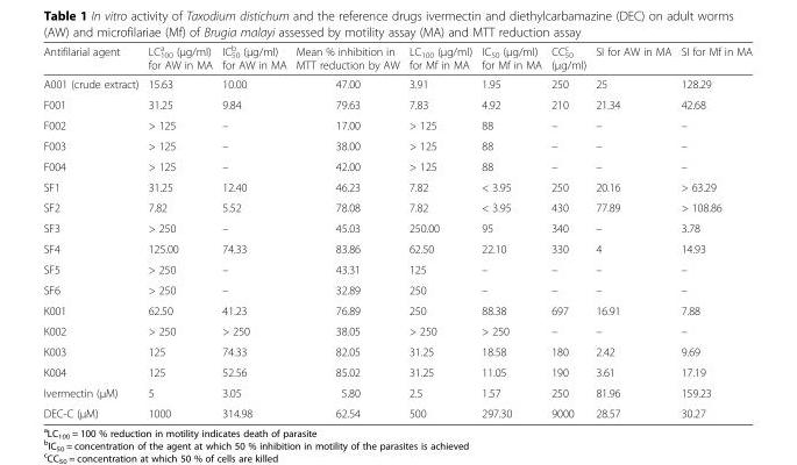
<table><thead><tr><td>Antifilarial agent</td><td>LC<sub>100</sub> <sup>a</sup> (μg/ml) for AW in MA</td><td>IC<sub>50</sub> <sup>b</sup> (μg/ml) for AW in MA</td><td>Mean % inhibition in MTT reduction by AW</td><td>LC<sub>100</sub> (μg/ml) for Mf in MA</td><td>IC<sub>50</sub> (μg/ml) for Mf in MA</td><td>CC<sub>50</sub> <sup>c</sup> (μg/ml)</td><td>SI for AW in MA</td><td>SI for Mf in MA</td></tr></thead><tbody><tr><td>A001 (crude extract)</td><td>15.63</td><td>10.00</td><td>47.00</td><td>3.91</td><td>1.95</td><td>250</td><td>25</td><td>128.29</td></tr><tr><td>F001</td><td>31.25</td><td>9.84</td><td>79.63</td><td>7.83</td><td>4.92</td><td>210</td><td>21.34</td><td>42.68</td></tr><tr><td>F002</td><td>&gt; 125</td><td>–</td><td>17.00</td><td>&gt; 125</td><td>88</td><td>–</td><td>–</td><td>–</td></tr><tr><td>F003</td><td>&gt; 125</td><td>–</td><td>38.00</td><td>&gt; 125</td><td>88</td><td>–</td><td>–</td><td>–</td></tr><tr><td>F004</td><td>&gt; 125</td><td>–</td><td>42.00</td><td>&gt; 125</td><td>88</td><td>–</td><td>–</td><td>–</td></tr><tr><td>SF1</td><td>31.25</td><td>12.40</td><td>46.23</td><td>7.82</td><td>&lt; 3.95</td><td>250</td><td>20.16</td><td>&gt; 63.29</td></tr><tr><td>SF2</td><td>7.82</td><td>5.52</td><td>78.08</td><td>7.82</td><td>&lt; 3.95</td><td>430</td><td>77.89</td><td>&gt; 108.86</td></tr><tr><td>SF3</td><td>&gt; 250</td><td>–</td><td>45.03</td><td>250.00</td><td>95</td><td>340</td><td>–</td><td>3.78</td></tr><tr><td>SF4</td><td>125.00</td><td>74.33</td><td>83.86</td><td>62.50</td><td>22.10</td><td>330</td><td>4</td><td>14.93</td></tr><tr><td>SF5</td><td>&gt; 250</td><td>–</td><td>43.31</td><td>125</td><td>–</td><td>–</td><td>–</td><td>–</td></tr><tr><td>SF6</td><td>&gt; 250</td><td>–</td><td>32.89</td><td>250</td><td>–</td><td>–</td><td>–</td><td>–</td></tr><tr><td>K001</td><td>62.50</td><td>41.23</td><td>76.89</td><td>250</td><td>88.38</td><td>697</td><td>16.91</td><td>7.88</td></tr><tr><td>K002</td><td>&gt; 250</td><td>&gt; 250</td><td>38.05</td><td>&gt; 250</td><td>&gt; 250</td><td>–</td><td>–</td><td>–</td></tr><tr><td>K003</td><td>125</td><td>74.33</td><td>82.05</td><td>31.25</td><td>18.58</td><td>180</td><td>2.42</td><td>9.69</td></tr><tr><td>K004</td><td>125</td><td>52.56</td><td>85.02</td><td>31.25</td><td>11.05</td><td>190</td><td>3.61</td><td>17.19</td></tr><tr><td>Ivermectin (μM)</td><td>5</td><td>3.05</td><td>5.80</td><td>2.5</td><td>1.57</td><td>250</td><td>81.96</td><td>159.23</td></tr><tr><td>DEC-C (μM)</td><td>1000</td><td>314.98</td><td>62.54</td><td>500</td><td>297.30</td><td>9000</td><td>28.57</td><td>30.27</td></tr></tbody></table>